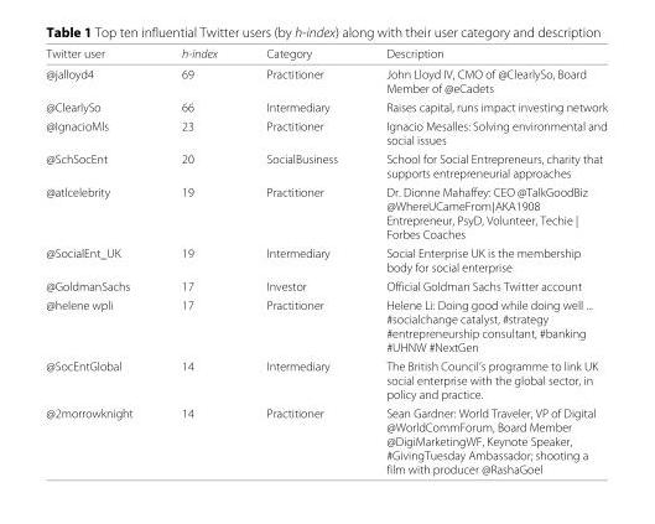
<table><thead><tr><td>Twitter user</td><td>h-index</td><td>Category</td><td>Description</td></tr></thead><tbody><tr><td>@jalloyd4</td><td>69</td><td>Practitioner</td><td>John Lloyd IV, CMO of @ClearlySo, Board Member of @eCadets</td></tr><tr><td>@ClearlySo</td><td>66</td><td>Intermediary</td><td>Raises capital, runs impact investing network</td></tr><tr><td>@IgnacioMls</td><td>23</td><td>Practitioner</td><td>Ignacio Mesalles: Solving environmental and social issues</td></tr><tr><td>@SchSocEnt</td><td>20</td><td>SocialBusiness</td><td>School for Social Entrepreneurs, charity that supports entrepreneurial approaches</td></tr><tr><td>@atlcelebrity</td><td>19</td><td>Practitioner</td><td>Dr. Dionne Mahaffey: CEO @TalkGoodBiz @WhereUCameFrom|AKA1908 Entrepreneur, PsyD, Volunteer, Techie | Forbes Coaches</td></tr><tr><td>@SocialEnt_UK</td><td>19</td><td>Intermediary</td><td>Social Enterprise UK is the membership body for social enterprise</td></tr><tr><td>@GoldmanSachs</td><td>17</td><td>Investor</td><td>Official Goldman Sachs Twitter account</td></tr><tr><td>@helene wpli</td><td>17</td><td>Practitioner</td><td>Helene Li: Doing good while doing well ... #socialchange catalyst, #strategy #entrepreneurship consultant, #banking #UHNW #NextGen</td></tr><tr><td>@SocEntGlobal</td><td>14</td><td>Intermediary</td><td>The British Council’s programme to link UK social enterprise with the global sector, in policy and practice.</td></tr><tr><td>@2morrowknight</td><td>14</td><td>Practitioner</td><td>Sean Gardner: World Traveler, VP of Digital @WorldCommForum, Board Member @DigiMarketingWF, Keynote Speaker, #GivingTuesday Ambassador; shooting a film with producer @RashaGoel</td></tr></tbody></table>